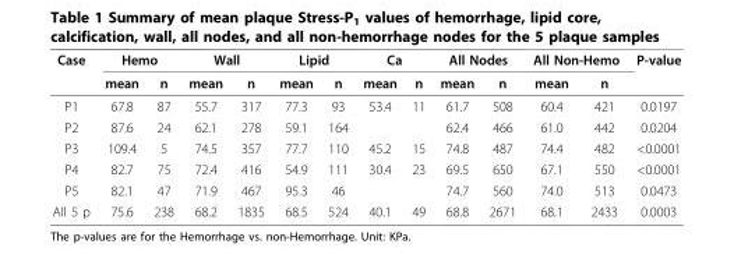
<table><thead><tr><td rowspan="2">Case</td><td colspan="2">Hemo</td><td colspan="2">Wall</td><td colspan="2">Lipid</td><td colspan="2">Ca</td><td colspan="2">All Nodes</td><td colspan="2">All Non-Hemo</td><td rowspan="2">P-value</td></tr><tr><td>mean</td><td>n</td><td>mean</td><td>n</td><td>mean</td><td>n</td><td>mean</td><td>n</td><td>mean</td><td>n</td><td>mean</td><td>n</td></tr></thead><tbody><tr><td>P1</td><td>67.8</td><td>87</td><td>55.7</td><td>317</td><td>77.3</td><td>93</td><td>53.4</td><td>11</td><td>61.7</td><td>508</td><td>60.4</td><td>421</td><td>0.0197</td></tr><tr><td>P2</td><td>87.6</td><td>24</td><td>62.1</td><td>278</td><td>59.1</td><td>164</td><td></td><td></td><td>62.4</td><td>466</td><td>61.0</td><td>442</td><td>0.0204</td></tr><tr><td>P3</td><td>109.4</td><td>5</td><td>74.5</td><td>357</td><td>77.7</td><td>110</td><td>45.2</td><td>15</td><td>74.8</td><td>487</td><td>74.4</td><td>482</td><td>&lt;0.0001</td></tr><tr><td>P4</td><td>82.7</td><td>75</td><td>72.4</td><td>416</td><td>54.9</td><td>111</td><td>30.4</td><td>23</td><td>69.5</td><td>650</td><td>67.1</td><td>550</td><td>&lt;0.0001</td></tr><tr><td>P5</td><td>82.1</td><td>47</td><td>71.9</td><td>467</td><td>95.3</td><td>46</td><td></td><td></td><td>74.7</td><td>560</td><td>74.0</td><td>513</td><td>0.0473</td></tr><tr><td>All 5 p</td><td>75.6</td><td>238</td><td>68.2</td><td>1835</td><td>68.5</td><td>524</td><td>40.1</td><td>49</td><td>68.8</td><td>2671</td><td>68.1</td><td>2433</td><td>0.0003</td></tr></tbody></table>